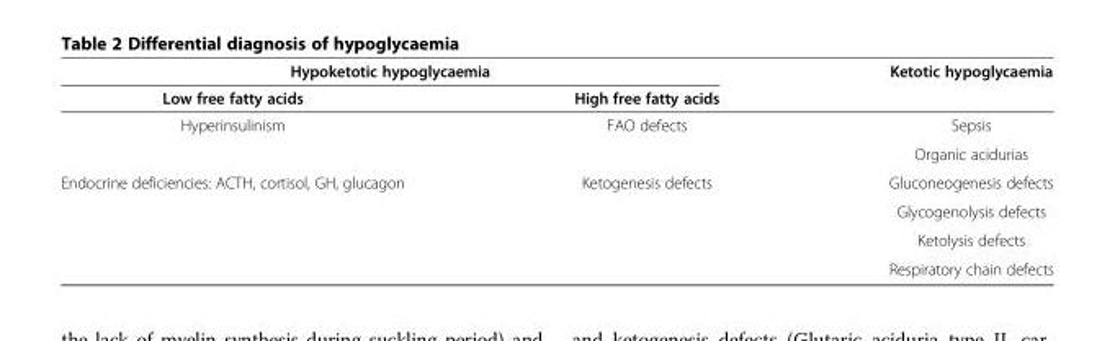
<table><thead><tr><td colspan="2">Hypoketotic hypoglycaemia</td><td rowspan="2">Ketotic hypoglycaemia</td></tr><tr><td>Low free fatty acids</td><td>High free fatty acids</td></tr></thead><tbody><tr><td rowspan="2">Hyperinsulinism</td><td>FAO defects</td><td>Sepsis</td></tr><tr><td></td><td>Organic acidurias</td></tr><tr><td rowspan="4">Endocrine deficiencies: ACTH, cortisol, GH, glucagon</td><td>Ketogenesis defects</td><td>Gluconeogenesis defects</td></tr><tr><td></td><td>Glycogenolysis defects</td></tr><tr><td></td><td>Ketolysis defects</td></tr><tr><td></td><td>Respiratory chain defects</td></tr></tbody></table>